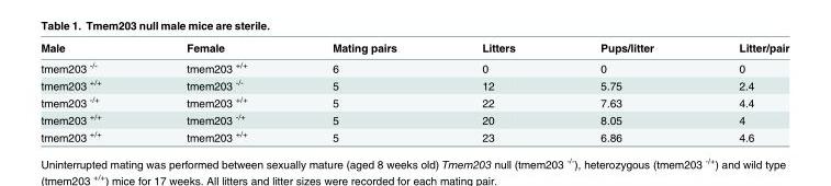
<table><thead><tr><td>Male</td><td>Female</td><td>Mating pairs</td><td>Litters</td><td>Pups/litter</td><td>Litter/pair</td></tr></thead><tbody><tr><td>tmem203 <sup>-/-</sup></td><td>tmem203 <sup>+/+</sup></td><td>6</td><td>0</td><td>0</td><td>0</td></tr><tr><td>tmem203 <sup>+/+</sup></td><td>tmem203 <sup>-/-</sup></td><td>5</td><td>12</td><td>5.75</td><td>2.4</td></tr><tr><td>tmem203 <sup>-/+</sup></td><td>tmem203 <sup>+/+</sup></td><td>5</td><td>22</td><td>7.63</td><td>4.4</td></tr><tr><td>tmem203 <sup>+/+</sup></td><td>tmem203 <sup>-/+</sup></td><td>5</td><td>20</td><td>8.05</td><td>4</td></tr><tr><td>tmem203 <sup>+/+</sup></td><td>tmem203 <sup>+/+</sup></td><td>5</td><td>23</td><td>6.86</td><td>4.6</td></tr></tbody></table>